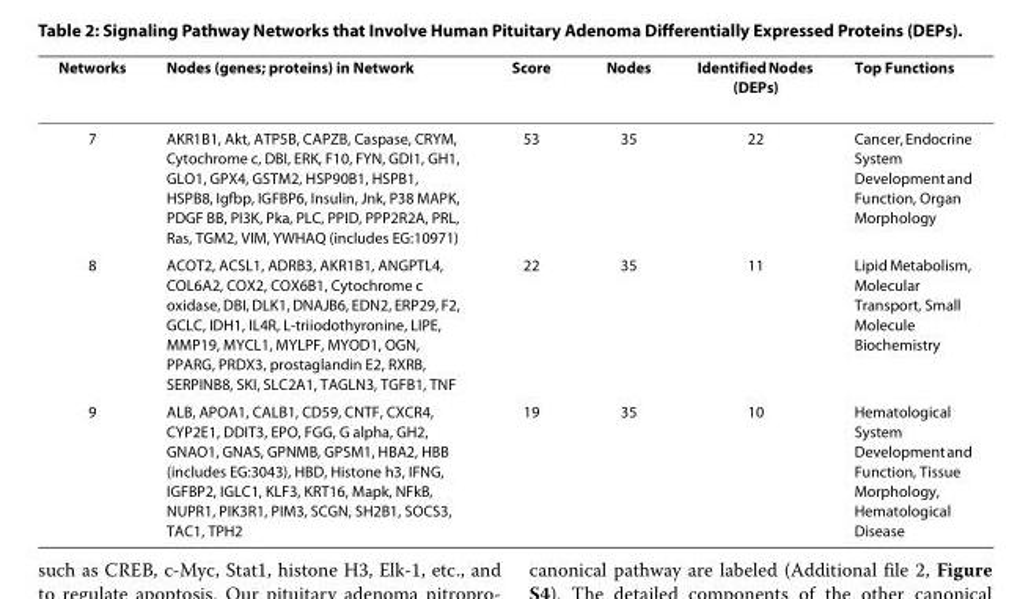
<table><thead><tr><td>Networks</td><td>Nodes (genes; proteins) in Network</td><td>Score</td><td>Nodes</td><td>Identified Nodes (DEPs)</td><td>Top Functions</td></tr></thead><tbody><tr><td>7</td><td>AKR1B1, Akt, ATP5B, CAPZB, Caspase, CRYM, Cytochrome c, DBI, ERK, F10, FYN, GDI1, GH1, GLO1, GPX4, GSTM2, HSP90B1, HSPB1, HSPB8, Igfbp, IGFBP6, Insulin, Jnk, P38 MAPK, PDGF BB, PI3K, Pka, PLC, PPID, PPP2R2A, PRL, Ras, TGM2, VIM, YWHAQ (includes EG:10971)</td><td>53</td><td>35</td><td>22</td><td>Cancer, Endocrine System Development and Function, Organ Morphology</td></tr><tr><td>8</td><td>ACOT2, ACSL1, ADRB3, AKR1B1, ANGPTL4, COL6A2, COX2, COX6B1, Cytochrome c oxidase, DBI, DLK1, DNAJB6, EDN2, ERP29, F2, GCLC, IDH1, IL4R, L-triiodothyronine, LIPE, MMP19, MYCL1, MYLPF, MYOD1, OGN, PPARG, PRDX3, prostaglandin E2, RXRB, SERPINB8, SKI, SLC2A1, TAGLN3, TGFB1, TNF</td><td>22</td><td>35</td><td>11</td><td>Lipid Metabolism, Molecular Transport, Small Molecule Biochemistry</td></tr><tr><td>9</td><td>ALB, APOA1, CALB1, CD59, CNTF, CXCR4, CYP2E1, DDIT3, EPO, FGG, G alpha, GH2, GNAO1, GNAS, GPNMB, GPSM1, HBA2, HBB (includes EG:3043), HBD, Histone h3, IFNG, IGFBP2, IGLC1, KLF3, KRT16, Mapk, NFkB, NUPR1, PIK3R1, PIM3, SCGN, SH2B1, SOCS3, TAC1, TPH2</td><td>19</td><td>35</td><td>10</td><td>Hematological System Development and Function, Tissue Morphology, Hematological Disease</td></tr></tbody></table>